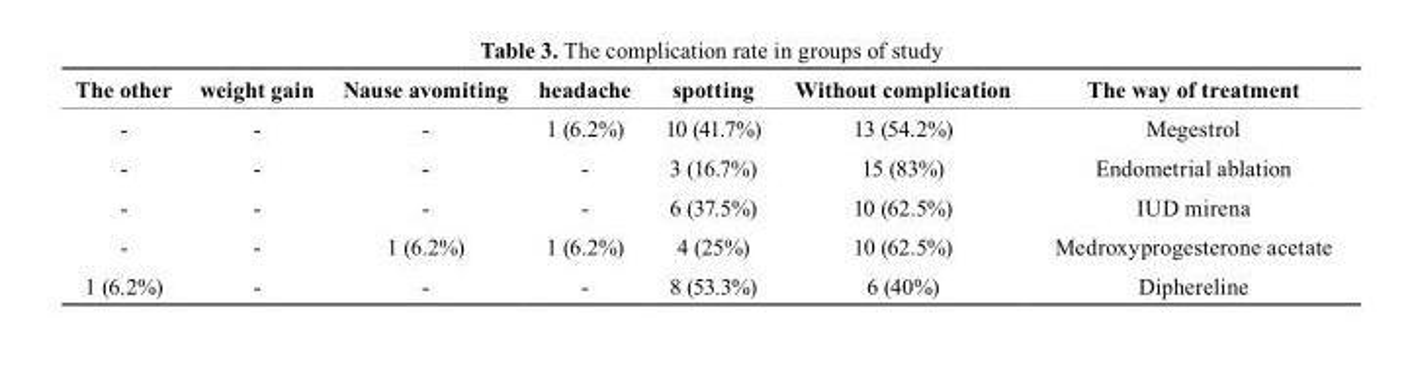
<table><thead><tr><td>the other</td><td>weight gain</td><td>Nause avomiting</td><td>headache</td><td>spotting</td><td>Without complication</td><td>The way of treatment</td></tr></thead><tbody><tr><td>-</td><td>-</td><td>-</td><td>1 (6.2%)</td><td>10 (41.7%)</td><td>13 (54.2%)</td><td>Megestrol</td></tr><tr><td>-</td><td>-</td><td>-</td><td>-</td><td>3 (16.7%)</td><td>15 (83%)</td><td>Endometrial ablation</td></tr><tr><td>-</td><td>-</td><td>-</td><td>-</td><td>6 (37.5%)</td><td>10 (62.5%)</td><td>IUD mirena</td></tr><tr><td>-</td><td>-</td><td>1 (6.2%)</td><td>1 (6.2%)</td><td>4 (25%)</td><td>10 (62.5%)</td><td>Medroxyprogesterone acetate</td></tr><tr><td>1 (6.2%)</td><td>-</td><td>-</td><td>-</td><td>8 (53.3%)</td><td>6 (40%)</td><td>Diphereline</td></tr></tbody></table>